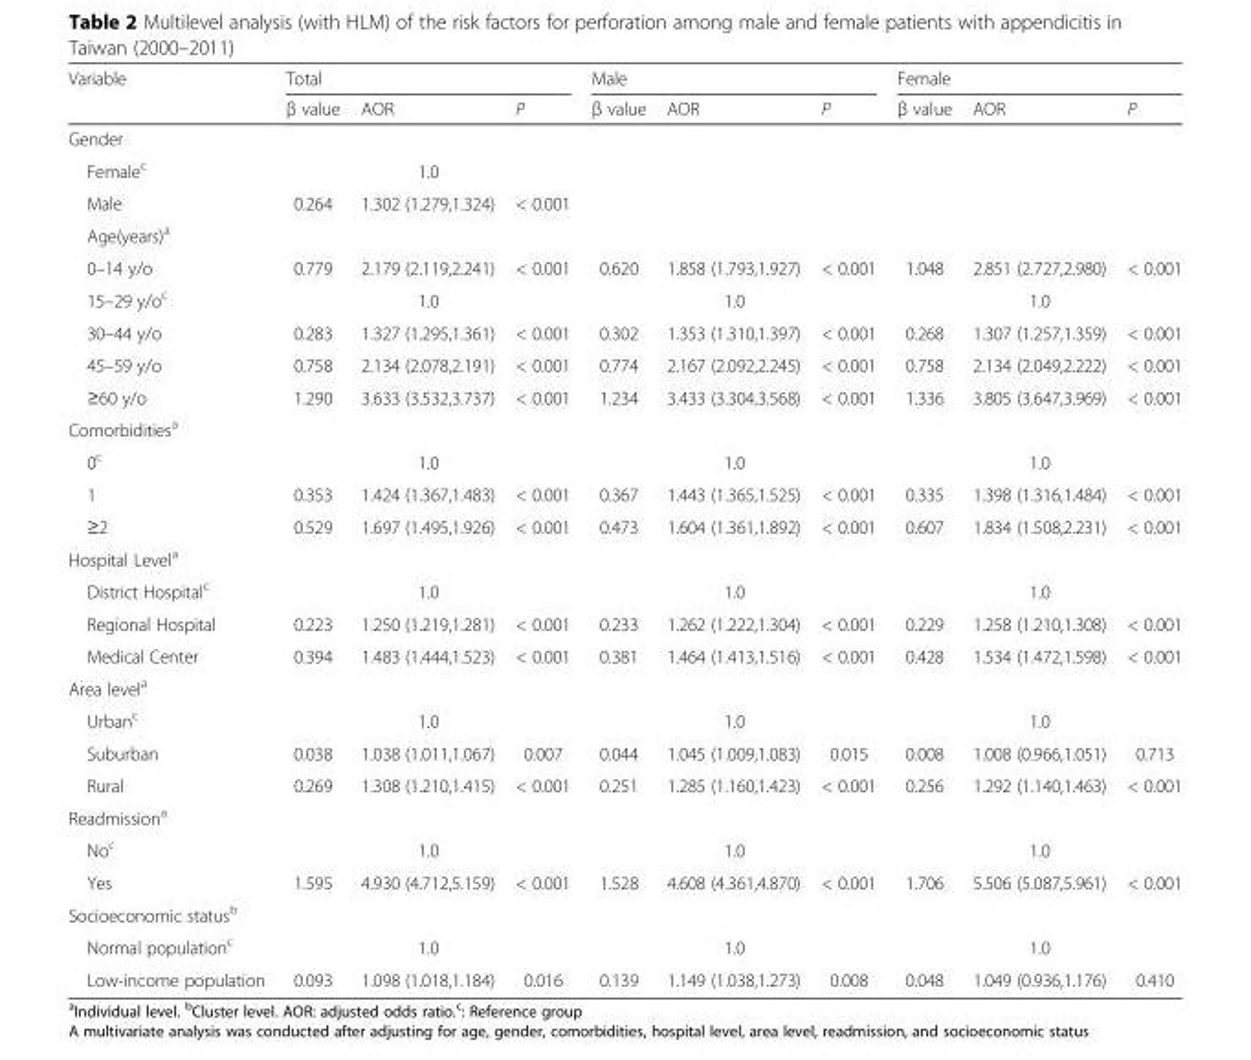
<table><thead><tr><td rowspan="2">Variable</td><td colspan="3">Total</td><td colspan="3">Male</td><td colspan="3">Female</td></tr><tr><td>β value</td><td>AOR</td><td>P</td><td>β value</td><td>AOR</td><td>P</td><td>β value</td><td>AOR</td><td>P</td></tr></thead><tbody><tr><td colspan="10">Gender</td></tr><tr><td>Female<sup>c</sup></td><td colspan="3">1.0</td><td rowspan="2" colspan="3"></td><td rowspan="2" colspan="3"></td></tr><tr><td>Male</td><td>0.264</td><td>1.302 (1.279,1.324)</td><td>&lt; 0.001</td></tr><tr><td colspan="10">Age(years)<sup>a</sup></td></tr><tr><td>0–14 y/o</td><td>0.779</td><td>2.179 (2.119,2.241)</td><td>&lt; 0.001</td><td>0.620</td><td>1.858 (1.793,1.927)</td><td>&lt; 0.001</td><td>1.048</td><td>2.851 (2.727,2.980)</td><td>&lt; 0.001</td></tr><tr><td>15–29 y/o<sup>c</sup></td><td colspan="3">1.0</td><td colspan="3">1.0</td><td colspan="3">1.0</td></tr><tr><td>30–44 y/o</td><td>0.283</td><td>1.327 (1.295,1.361)</td><td>&lt; 0.001</td><td>0.302</td><td>1.353 (1.310,1.397)</td><td>&lt; 0.001</td><td>0.268</td><td>1.307 (1.257,1.359)</td><td>&lt; 0.001</td></tr><tr><td>45–59 y/o</td><td>0.758</td><td>2.134 (2.078,2.191)</td><td>&lt; 0.001</td><td>0.774</td><td>2.167 (2.092,2.245)</td><td>&lt; 0.001</td><td>0.758</td><td>2.134 (2.049,2.222)</td><td>&lt; 0.001</td></tr><tr><td>≥60 y/o</td><td>1.290</td><td>3.633 (3.532,3.737)</td><td>&lt; 0.001</td><td>1.234</td><td>3.433 (3.304,3.568)</td><td>&lt; 0.001</td><td>1.336</td><td>3.805 (3.647,3.969)</td><td>&lt; 0.001</td></tr><tr><td colspan="10">Comorbidities<sup>a</sup></td></tr><tr><td>0<sup>c</sup></td><td colspan="3">1.0</td><td colspan="3">1.0</td><td colspan="3">1.0</td></tr><tr><td>1</td><td>0.353</td><td>1.424 (1.367,1.483)</td><td>&lt; 0.001</td><td>0.367</td><td>1.443 (1.365,1.525)</td><td>&lt; 0.001</td><td>0.335</td><td>1.398 (1.316,1.484)</td><td>&lt; 0.001</td></tr><tr><td>≥2</td><td>0.529</td><td>1.697 (1.495,1.926)</td><td>&lt; 0.001</td><td>0.473</td><td>1.604 (1.361,1.892)</td><td>&lt; 0.001</td><td>0.607</td><td>1.834 (1.508,2.231)</td><td>&lt; 0.001</td></tr><tr><td colspan="10">Hospital Level<sup>a</sup></td></tr><tr><td>District Hospital<sup>c</sup></td><td colspan="3">1.0</td><td colspan="3">1.0</td><td colspan="3">1.0</td></tr><tr><td>Regional Hospital</td><td>0.223</td><td>1.250 (1.219,1.281)</td><td>&lt; 0.001</td><td>0.233</td><td>1.262 (1.222,1.304)</td><td>&lt; 0.001</td><td>0.229</td><td>1.258 (1.210,1.308)</td><td>&lt; 0.001</td></tr><tr><td>Medical Center</td><td>0.394</td><td>1.483 (1.444,1.523)</td><td>&lt; 0.001</td><td>0.381</td><td>1.464 (1.413,1.516)</td><td>&lt; 0.001</td><td>0.428</td><td>1.534 (1.472,1.598)</td><td>&lt; 0.001</td></tr><tr><td colspan="10">Area level<sup>a</sup></td></tr><tr><td>Urban<sup>c</sup></td><td colspan="3">1.0</td><td colspan="3">1.0</td><td colspan="3">1.0</td></tr><tr><td>Suburban</td><td>0.038</td><td>1.038 (1.011,1.067)</td><td>0.007</td><td>0.044</td><td>1.045 (1.009,1.083)</td><td>0.015</td><td>0.008</td><td>1.008 (0.966,1.051)</td><td>0.713</td></tr><tr><td>Rural</td><td>0.269</td><td>1.308 (1.210,1.415)</td><td>&lt; 0.001</td><td>0.251</td><td>1.285 (1.160,1.423)</td><td>&lt; 0.001</td><td>0.256</td><td>1.292 (1.140,1.463)</td><td>&lt; 0.001</td></tr><tr><td colspan="10">Readmission<sup>a</sup></td></tr><tr><td>No<sup>c</sup></td><td colspan="3">1.0</td><td colspan="3">1.0</td><td colspan="3">1.0</td></tr><tr><td>Yes</td><td>1.595</td><td>4.930 (4.712,5.159)</td><td>&lt; 0.001</td><td>1.528</td><td>4.608 (4.361,4.870)</td><td>&lt; 0.001</td><td>1.706</td><td>5.506 (5.087,5.961)</td><td>&lt; 0.001</td></tr><tr><td colspan="10">Socioeconomic status<sup>b</sup></td></tr><tr><td>Normal population<sup>c</sup></td><td colspan="3">1.0</td><td colspan="3">1.0</td><td colspan="3">1.0</td></tr><tr><td>Low-income population</td><td>0.093</td><td>1.098 (1.018,1.184)</td><td>0.016</td><td>0.139</td><td>1.149 (1.038,1.273)</td><td>0.008</td><td>0.048</td><td>1.049 (0.936,1.176)</td><td>0.410</td></tr></tbody></table>